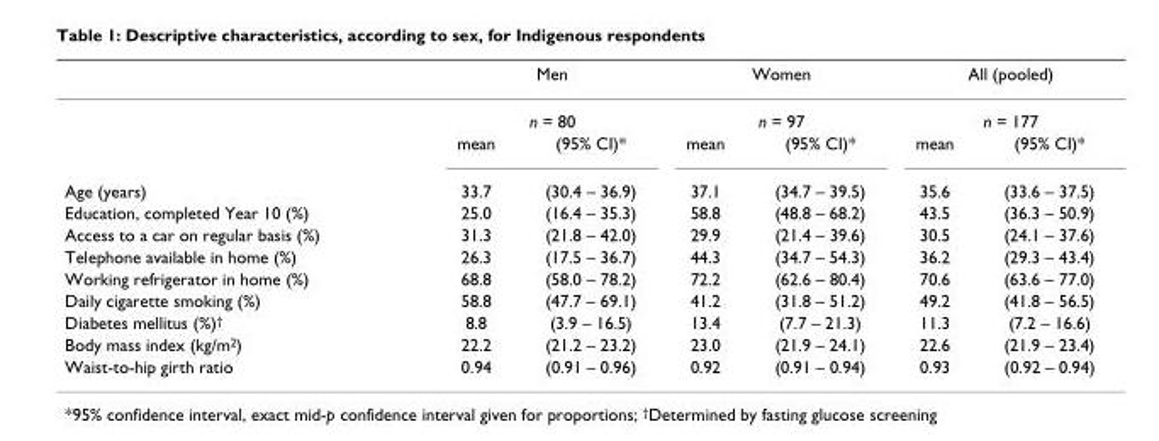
<table><thead><tr><td rowspan="3"></td><td rowspan="2" colspan="2">Men n = 80</td><td rowspan="2" colspan="2">Women n = 97</td><td rowspan="2" colspan="2">All (pooled) n = 177</td></tr><tr></tr><tr><td>mean</td><td>(95% CI)*</td><td>mean</td><td>(95% CI)*</td><td>mean</td><td>(95% CI)*</td></tr></thead><tbody><tr><td>Age (years)</td><td>33.7</td><td>(30.4 – 36.9)</td><td>37.1</td><td>(34.7 – 39.5)</td><td>35.6</td><td>(33.6 – 37.5)</td></tr><tr><td>Education, completed Year 10 (%)</td><td>25.0</td><td>(16.4 – 35.3)</td><td>58.8</td><td>(48.8 – 68.2)</td><td>43.5</td><td>(36.3 – 50.9)</td></tr><tr><td>Access to a car on regular basis (%)</td><td>31.3</td><td>(21.8 – 42.0)</td><td>29.9</td><td>(21.4 – 39.6)</td><td>30.5</td><td>(24.1 – 37.6)</td></tr><tr><td>Telephone available in home (%)</td><td>26.3</td><td>(17.5 – 36.7)</td><td>44.3</td><td>(34.7 – 54.3)</td><td>36.2</td><td>(29.3 – 43.4)</td></tr><tr><td>Working refrigerator in home (%)</td><td>68.8</td><td>(58.0 – 78.2)</td><td>72.2</td><td>(62.6 – 80.4)</td><td>70.6</td><td>(63.6 – 77.0)</td></tr><tr><td>Daily cigarette smoking (%)</td><td>58.8</td><td>(47.7 – 69.1)</td><td>41.2</td><td>(31.8 – 51.2)</td><td>49.2</td><td>(41.8 – 56.5)</td></tr><tr><td>Diabetes mellitus (%)<sup>†</sup></td><td>8.8</td><td>(3.9 – 16.5)</td><td>13.4</td><td>(7.7 – 21.3)</td><td>11.3</td><td>(7.2 – 16.6)</td></tr><tr><td>Body mass index (kg/m<sup>2</sup>)</td><td>22.2</td><td>(21.2 – 23.2)</td><td>23.0</td><td>(21.9 – 24.1)</td><td>22.6</td><td>(21.9 – 23.4)</td></tr><tr><td>Waist-to-hip girth ratio</td><td>0.94</td><td>(0.91 – 0.96)</td><td>0.92</td><td>(0.91 – 0.94)</td><td>0.93</td><td>(0.92 – 0.94)</td></tr></tbody></table>